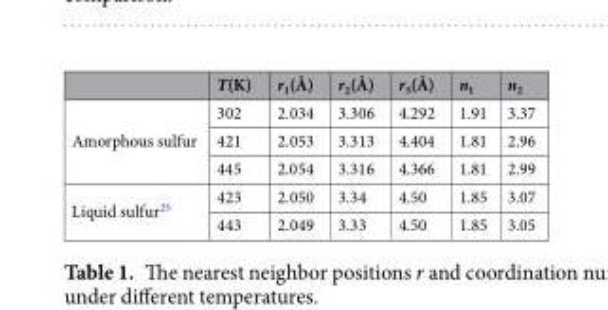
<table><thead><tr><td></td><td>T(K)</td><td>r<sub>1</sub>(Å)</td><td>r<sub>2</sub>(Å)</td><td>r<sub>3</sub>(Å)</td><td>n<sub>1</sub></td><td>n<sub>2</sub></td></tr></thead><tbody><tr><td rowspan="3">Amorphous sulfur</td><td>302</td><td>2.034</td><td>3.306</td><td>4.292</td><td>1.91</td><td>3.37</td></tr><tr><td>421</td><td>2.053</td><td>3.313</td><td>4.404</td><td>1.81</td><td>2.96</td></tr><tr><td>445</td><td>2.054</td><td>3.316</td><td>4.366</td><td>1.81</td><td>2.99</td></tr><tr><td rowspan="2">Liquid sulfur<sup>25</sup></td><td>423</td><td>2.050</td><td>3.34</td><td>4.50</td><td>1.85</td><td>3.07</td></tr><tr><td>443</td><td>2.049</td><td>3.33</td><td>4.50</td><td>1.85</td><td>3.05</td></tr></tbody></table>